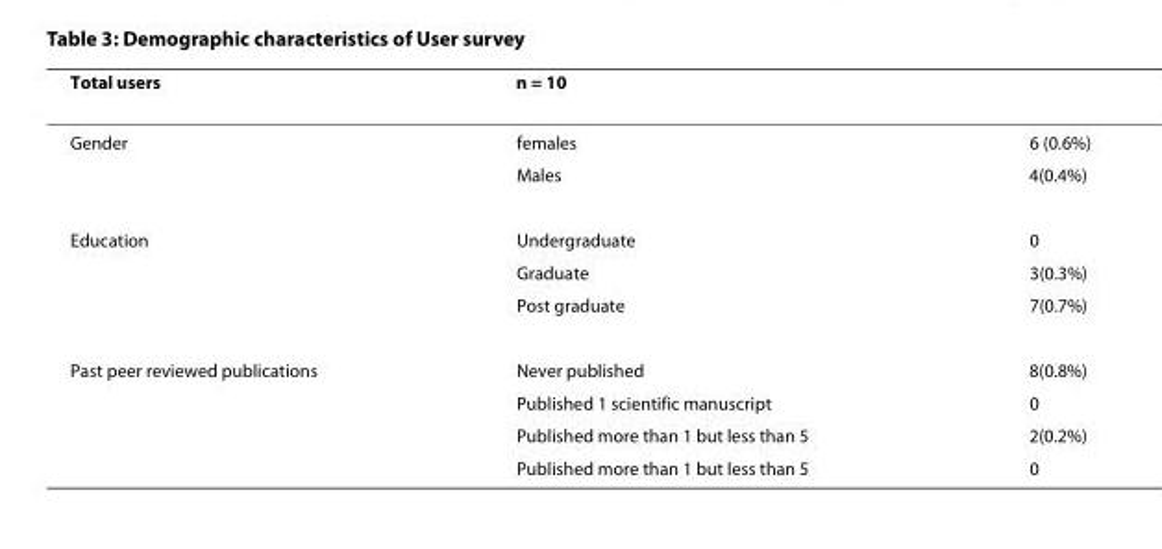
<table><thead><tr><td>Total users</td><td>n = 10</td><td></td></tr></thead><tbody><tr><td rowspan="2">Gender</td><td>females</td><td>6 (0.6%)</td></tr><tr><td>Males</td><td>4(0.4%)</td></tr><tr><td rowspan="3">Education</td><td>Undergraduate</td><td>0</td></tr><tr><td>Graduate</td><td>3(0.3%)</td></tr><tr><td>Post graduate</td><td>7(0.7%)</td></tr><tr><td rowspan="4">Past peer reviewed publications</td><td>Never published</td><td>8(0.8%)</td></tr><tr><td>Published 1 scientific manuscript</td><td>0</td></tr><tr><td>Published more than 1 but less than 5</td><td>2(0.2%)</td></tr><tr><td>Published more than 1 but less than 5</td><td>0</td></tr></tbody></table>